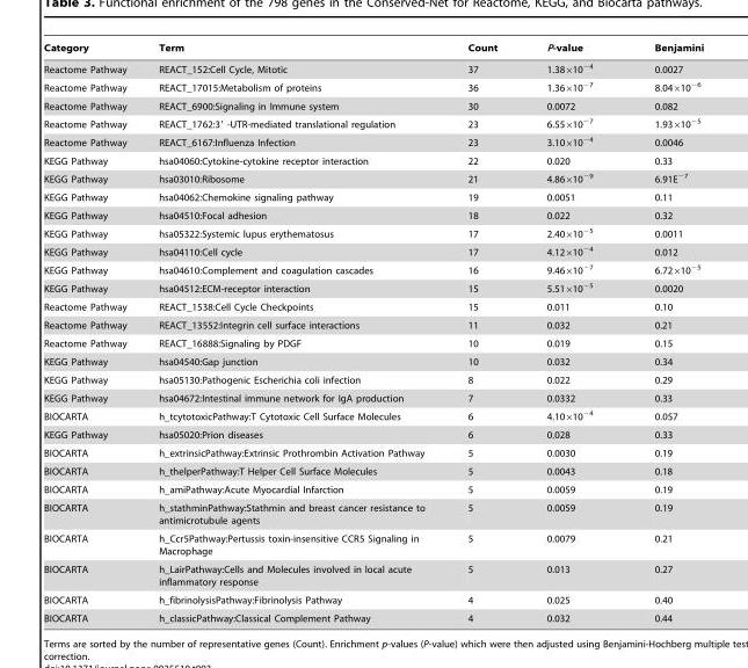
<table><thead><tr><td>Category</td><td>Term</td><td>Count</td><td>P-value</td><td>Benjamini</td></tr></thead><tbody><tr><td>Reactome Pathway</td><td>REACT_152:Cell Cycle, Mitotic</td><td>37</td><td>1.38×10<sup>−4</sup></td><td>0.0027</td></tr><tr><td>Reactome Pathway</td><td>REACT_17015:Metabolism of proteins</td><td>36</td><td>1.36×10<sup>−7</sup></td><td>8.04×10<sup>−6</sup></td></tr><tr><td>Reactome Pathway</td><td>REACT_6900:Signaling in Immune system</td><td>30</td><td>0.0072</td><td>0.082</td></tr><tr><td>Reactome Pathway</td><td>REACT_1762:3′ -UTR-mediated translational regulation</td><td>23</td><td>6.55×10<sup>−7</sup></td><td>1.93×10<sup>−5</sup></td></tr><tr><td>Reactome Pathway</td><td>REACT_6167:Influenza Infection</td><td>23</td><td>3.10×10<sup>−4</sup></td><td>0.0046</td></tr><tr><td>KEGG Pathway</td><td>hsa04060:Cytokine-cytokine receptor interaction</td><td>22</td><td>0.020</td><td>0.33</td></tr><tr><td>KEGG Pathway</td><td>hsa03010:Ribosome</td><td>21</td><td>4.86×10<sup>−9</sup></td><td>6.91E<sup>−7</sup></td></tr><tr><td>KEGG Pathway</td><td>hsa04062:Chemokine signaling pathway</td><td>19</td><td>0.0051</td><td>0.11</td></tr><tr><td>KEGG Pathway</td><td>hsa04510:Focal adhesion</td><td>18</td><td>0.022</td><td>0.32</td></tr><tr><td>KEGG Pathway</td><td>hsa05322:Systemic lupus erythematosus</td><td>17</td><td>2.40×10<sup>−5</sup></td><td>0.0011</td></tr><tr><td>KEGG Pathway</td><td>hsa04110:Cell cycle</td><td>17</td><td>4.12×10<sup>−4</sup></td><td>0.012</td></tr><tr><td>KEGG Pathway</td><td>hsa04610:Complement and coagulation cascades</td><td>16</td><td>9.46×10<sup>−7</sup></td><td>6.72×10<sup>−5</sup></td></tr><tr><td>KEGG Pathway</td><td>hsa04512:ECM-receptor interaction</td><td>15</td><td>5.51×10<sup>−5</sup></td><td>0.0020</td></tr><tr><td>Reactome Pathway</td><td>REACT_1538:Cell Cycle Checkpoints</td><td>15</td><td>0.011</td><td>0.10</td></tr><tr><td>Reactome Pathway</td><td>REACT_13552:Integrin cell surface interactions</td><td>11</td><td>0.032</td><td>0.21</td></tr><tr><td>Reactome Pathway</td><td>REACT_16888:Signaling by PDGF</td><td>10</td><td>0.019</td><td>0.15</td></tr><tr><td>KEGG Pathway</td><td>hsa04540:Gap junction</td><td>10</td><td>0.032</td><td>0.34</td></tr><tr><td>KEGG Pathway</td><td>hsa05130:Pathogenic Escherichia coli infection</td><td>8</td><td>0.022</td><td>0.29</td></tr><tr><td>KEGG Pathway</td><td>hsa04672:Intestinal immune network for IgA production</td><td>7</td><td>0.0332</td><td>0.33</td></tr><tr><td>BIOCARTA</td><td>h_tcytotoxicPathway:T Cytotoxic Cell Surface Molecules</td><td>6</td><td>4.10×10<sup>−4</sup></td><td>0.057</td></tr><tr><td>KEGG Pathway</td><td>hsa05020:Prion diseases</td><td>6</td><td>0.028</td><td>0.33</td></tr><tr><td>BIOCARTA</td><td>h_extrinsicPathway:Extrinsic Prothrombin Activation Pathway</td><td>5</td><td>0.0030</td><td>0.19</td></tr><tr><td>BIOCARTA</td><td>h_thelperPathway:T Helper Cell Surface Molecules</td><td>5</td><td>0.0043</td><td>0.18</td></tr><tr><td>BIOCARTA</td><td>h_amiPathway:Acute Myocardial Infarction</td><td>5</td><td>0.0059</td><td>0.19</td></tr><tr><td>BIOCARTA</td><td>h_stathminPathway:Stathmin and breast cancer resistance to antimicrotubule agents</td><td>5</td><td>0.0059</td><td>0.19</td></tr><tr><td>BIOCARTA</td><td>h_Ccr5Pathway:Pertussis toxin-insensitive CCR5 Signaling in Macrophage</td><td>5</td><td>0.0079</td><td>0.21</td></tr><tr><td>BIOCARTA</td><td>h_LairPathway:Cells and Molecules involved in local acute inflammatory response</td><td>5</td><td>0.013</td><td>0.27</td></tr><tr><td>BIOCARTA</td><td>h_fibrinolysisPathway:Fibrinolysis Pathway</td><td>4</td><td>0.025</td><td>0.40</td></tr><tr><td>BIOCARTA</td><td>h_classicPathway:Classical Complement Pathway</td><td>4</td><td>0.032</td><td>0.44</td></tr></tbody></table>